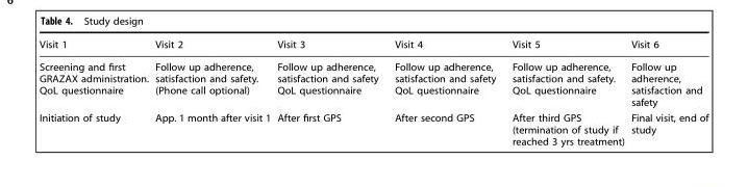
<table><thead><tr><td>Visit 1</td><td>Visit 2</td><td>Visit 3</td><td>Visit 4</td><td>Visit 5</td><td>Visit 6</td></tr></thead><tbody><tr><td>Screening and first GRAZAX administration. QoL questionnaire</td><td>Follow up adherence, satisfaction and safety. (Phone call optional)</td><td>Follow up adherence, satisfaction and safety QoL questionnaire</td><td>Follow up adherence, satisfaction and safety QoL questionnaire</td><td>Follow up adherence, satisfaction and safety. QoL questionnaire</td><td>Follow up adherence, satisfaction and safety</td></tr><tr><td>Initiation of study</td><td>App. 1 month after visit 1</td><td>After first GPS</td><td>After second GPS</td><td>After third GPS (termination of study if reached 3 yrs treatment)</td><td>Final visit, end of study</td></tr></tbody></table>